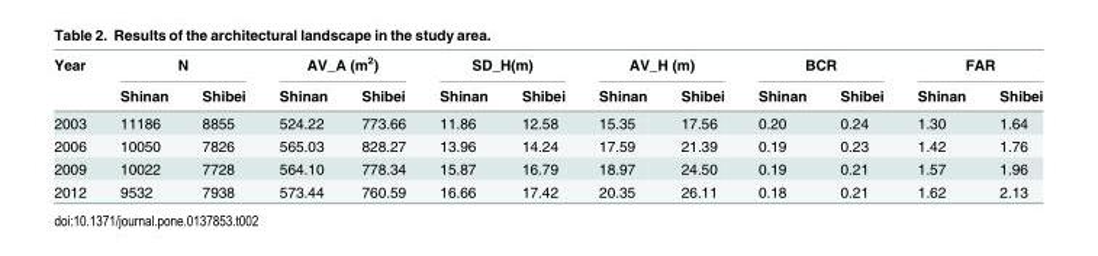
<table><thead><tr><td rowspan="2">Year</td><td colspan="2">N</td><td colspan="2">AV_A (m<sup>2</sup>)</td><td colspan="2">SD_H(m)</td><td colspan="2">AV_H (m)</td><td colspan="2">BCR</td><td colspan="2">FAR</td></tr><tr><td>Shinan</td><td>Shibei</td><td>Shinan</td><td>Shibei</td><td>Shinan</td><td>Shibei</td><td>Shinan</td><td>Shibei</td><td>Shinan</td><td>Shibei</td><td>Shinan</td><td>Shibei</td></tr></thead><tbody><tr><td>2003</td><td>11186</td><td>8855</td><td>524.22</td><td>773.66</td><td>11.86</td><td>12.58</td><td>15.35</td><td>17.56</td><td>0.20</td><td>0.24</td><td>1.30</td><td>1.64</td></tr><tr><td>2006</td><td>10050</td><td>7826</td><td>565.03</td><td>828.27</td><td>13.96</td><td>14.24</td><td>17.59</td><td>21.39</td><td>0.19</td><td>0.23</td><td>1.42</td><td>1.76</td></tr><tr><td>2009</td><td>10022</td><td>7728</td><td>564.10</td><td>778.34</td><td>15.87</td><td>16.79</td><td>18.97</td><td>24.50</td><td>0.19</td><td>0.21</td><td>1.57</td><td>1.96</td></tr><tr><td>2012</td><td>9532</td><td>7938</td><td>573.44</td><td>760.59</td><td>16.66</td><td>17.42</td><td>20.35</td><td>26.11</td><td>0.18</td><td>0.21</td><td>1.62</td><td>2.13</td></tr></tbody></table>